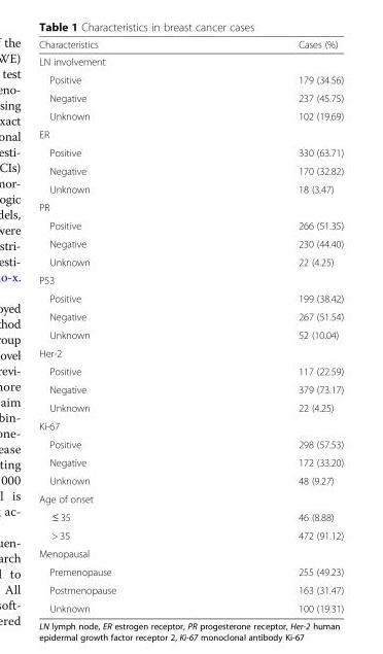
<table><thead><tr><td>Characteristics</td><td>Cases (%)</td></tr></thead><tbody><tr><td colspan="2">LN involvement</td></tr><tr><td>Positive</td><td>179 (34.56)</td></tr><tr><td>Negative</td><td>237 (45.75)</td></tr><tr><td>Unknown</td><td>102 (19.69)</td></tr><tr><td colspan="2">ER</td></tr><tr><td>Positive</td><td>330 (63.71)</td></tr><tr><td>Negative</td><td>170 (32.82)</td></tr><tr><td>Unknown</td><td>18 (3.47)</td></tr><tr><td colspan="2">PR</td></tr><tr><td>Positive</td><td>266 (51.35)</td></tr><tr><td>Negative</td><td>230 (44.40)</td></tr><tr><td>Unknown</td><td>22 (4.25)</td></tr><tr><td colspan="2">P53</td></tr><tr><td>Positive</td><td>199 (38.42)</td></tr><tr><td>Negative</td><td>267 (51.54)</td></tr><tr><td>Unknown</td><td>52 (10.04)</td></tr><tr><td colspan="2">Her-2</td></tr><tr><td>Positive</td><td>117 (22.59)</td></tr><tr><td>Negative</td><td>379 (73.17)</td></tr><tr><td>Unknown</td><td>22 (4.25)</td></tr><tr><td colspan="2">Ki-67</td></tr><tr><td>Positive</td><td>298 (57.53)</td></tr><tr><td>Negative</td><td>172 (33.20)</td></tr><tr><td>Unknown</td><td>48 (9.27)</td></tr><tr><td colspan="2">Age of onset</td></tr><tr><td>≤ 35</td><td>46 (8.88)</td></tr><tr><td>&gt; 35</td><td>472 (91.12)</td></tr><tr><td colspan="2">Menopausal</td></tr><tr><td>Premenopause</td><td>255 (49.23)</td></tr><tr><td>Postmenopause</td><td>163 (31.47)</td></tr><tr><td>Unknown</td><td>100 (19.31)</td></tr></tbody></table>